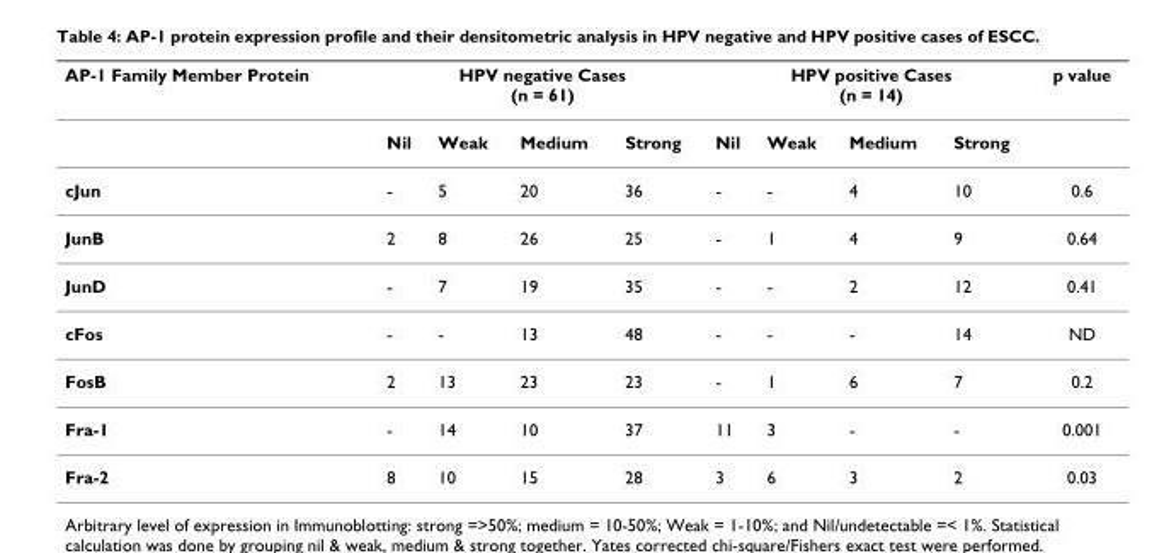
<table><thead><tr><td rowspan="2">AP-1 Family Member Protein</td><td colspan="4">HPV negative Cases (n = 61)</td><td colspan="4">HPV positive Cases (n = 14)</td><td rowspan="2">p value</td></tr><tr><td>Nil</td><td>Weak</td><td>Medium</td><td>Strong</td><td>Nil</td><td>Weak</td><td>Medium</td><td>Strong</td></tr></thead><tbody><tr><td>cJun</td><td>-</td><td>5</td><td>20</td><td>36</td><td>-</td><td>-</td><td>4</td><td>10</td><td>0.6</td></tr><tr><td>JunB</td><td>2</td><td>8</td><td>26</td><td>25</td><td>-</td><td>1</td><td>4</td><td>9</td><td>0.64</td></tr><tr><td>JunD</td><td>-</td><td>7</td><td>19</td><td>35</td><td>-</td><td>-</td><td>2</td><td>12</td><td>0.41</td></tr><tr><td>cFos</td><td>-</td><td>-</td><td>13</td><td>48</td><td>-</td><td>-</td><td>-</td><td>14</td><td>ND</td></tr><tr><td>FosB</td><td>2</td><td>13</td><td>23</td><td>23</td><td>-</td><td>1</td><td>6</td><td>7</td><td>0.2</td></tr><tr><td>Fra-1</td><td>-</td><td>14</td><td>10</td><td>37</td><td>11</td><td>3</td><td>-</td><td>-</td><td>0.001</td></tr><tr><td>Fra-2</td><td>8</td><td>10</td><td>15</td><td>28</td><td>3</td><td>6</td><td>3</td><td>2</td><td>0.03</td></tr></tbody></table>